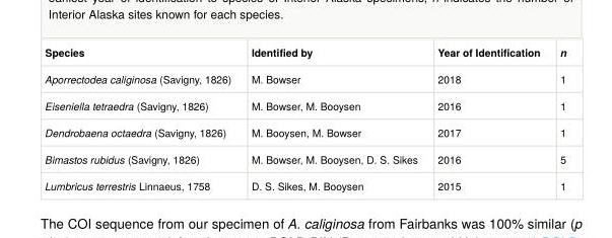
<table><thead><tr><td>Species</td><td>Identified by</td><td>Year of Identification</td><td>n</td></tr></thead><tbody><tr><td>Aporrectodea caliginosa (Savigny, 1826)</td><td>M. Bowser</td><td>2018</td><td>1</td></tr><tr><td>Eiseniella tetraedra (Savigny, 1826)</td><td>M. Bowser, M. Booysen</td><td>2016</td><td>1</td></tr><tr><td>Dendrobaena octaedra (Savigny, 1826)</td><td>M. Booysen, M. Bowser</td><td>2017</td><td>1</td></tr><tr><td>Bimastos rubidus (Savigny, 1826)</td><td>M. Bowser, M. Booysen, D. S. Sikes</td><td>2016</td><td>5</td></tr><tr><td>Lumbricus terrestris Linnaeus, 1758</td><td>D. S. Sikes, M. Booysen</td><td>2015</td><td>1</td></tr></tbody></table>